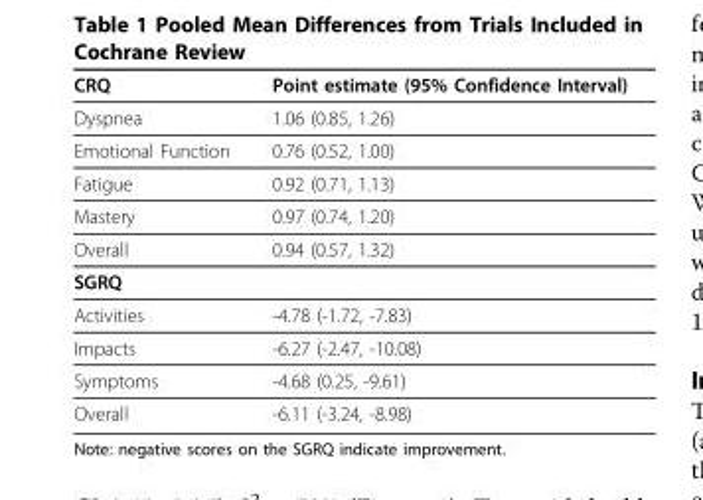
<table><thead><tr><td>CRQ</td><td>Point estimate (95% Confidence Interval)</td></tr></thead><tbody><tr><td>Dyspnea</td><td>1.06 (0.85, 1.26)</td></tr><tr><td>Emotional Function</td><td>0.76 (0.52, 1.00)</td></tr><tr><td>Fatigue</td><td>0.92 (0.71, 1.13)</td></tr><tr><td>Mastery</td><td>0.97 (0.74, 1.20)</td></tr><tr><td>Overall</td><td>0.94 (0.57, 1.32)</td></tr><tr><td colspan="2">SGRQ</td></tr><tr><td>Activities</td><td>-4.78 (-1.72, -7.83)</td></tr><tr><td>Impacts</td><td>-6.27 (-2.47, -10.08)</td></tr><tr><td>Symptoms</td><td>-4.68 (0.25, -9.61)</td></tr><tr><td>Overall</td><td>-6.11 (-3.24, -8.98)</td></tr></tbody></table>